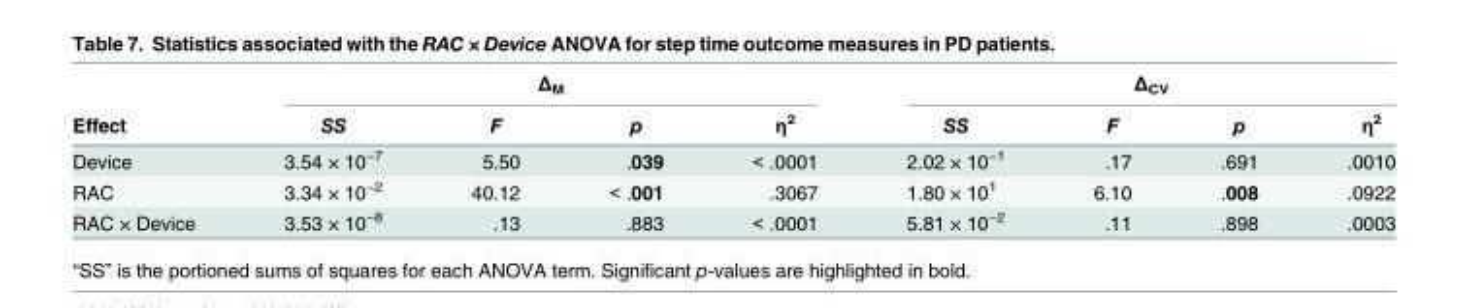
<table><thead><tr><td rowspan="2">Effect</td><td colspan="4">Δ<sub>M</sub></td><td colspan="4">Δ<sub>CV</sub></td></tr><tr><td>SS</td><td>F</td><td>p</td><td>η<sup>2</sup></td><td>SS</td><td>F</td><td>p</td><td>η<sup>2</sup></td></tr></thead><tbody><tr><td>Device</td><td>3.54 × 10<sup>−7</sup></td><td>5.50</td><td>.039</td><td>&lt; .0001</td><td>2.02 × 10<sup>−1</sup></td><td>.17</td><td>.691</td><td>.0010</td></tr><tr><td>RAC</td><td>3.34 × 10<sup>−2</sup></td><td>40.12</td><td>&lt; .001</td><td>.3067</td><td>1.80 × 10<sup>1</sup></td><td>6.10</td><td>.008</td><td>.0922</td></tr><tr><td>RAC × Device</td><td>3.53 × 10<sup>−8</sup></td><td>.13</td><td>.883</td><td>&lt; .0001</td><td>5.81 × 10<sup>−2</sup></td><td>.11</td><td>.898</td><td>.0003</td></tr></tbody></table>